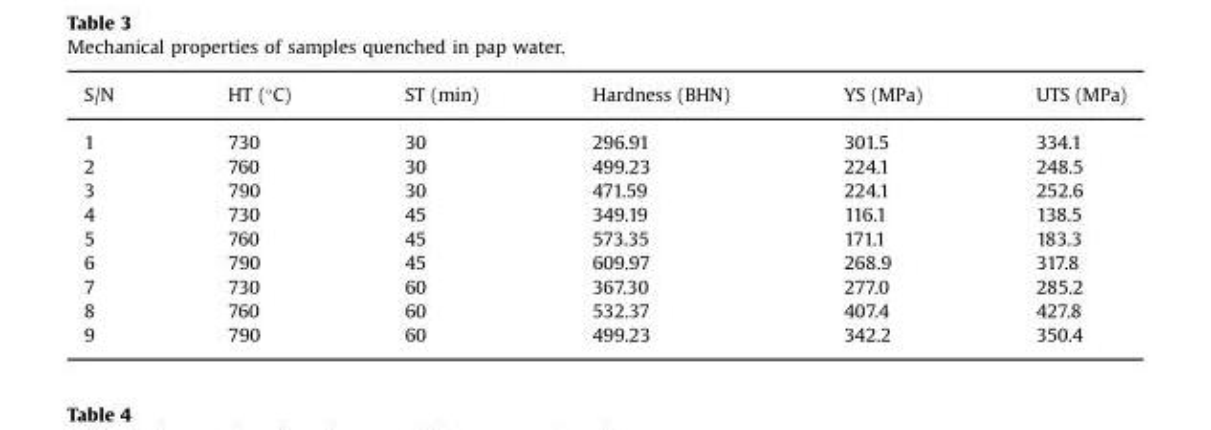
<table><thead><tr><td>S/N</td><td>HT (°C)</td><td>ST (min)</td><td>Hardness (BHN)</td><td>YS (MPa)</td><td>UTS (MPa)</td></tr></thead><tbody><tr><td>1</td><td>730</td><td>30</td><td>296.91</td><td>301.5</td><td>334.1</td></tr><tr><td>2</td><td>760</td><td>30</td><td>499.23</td><td>224.1</td><td>248.5</td></tr><tr><td>3</td><td>790</td><td>30</td><td>471.59</td><td>224.1</td><td>252.6</td></tr><tr><td>4</td><td>730</td><td>45</td><td>349.19</td><td>116.1</td><td>138.5</td></tr><tr><td>5</td><td>760</td><td>45</td><td>573.35</td><td>171.1</td><td>183.3</td></tr><tr><td>6</td><td>790</td><td>45</td><td>609.97</td><td>268.9</td><td>317.8</td></tr><tr><td>7</td><td>730</td><td>60</td><td>367.30</td><td>277.0</td><td>285.2</td></tr><tr><td>8</td><td>760</td><td>60</td><td>532.37</td><td>407.4</td><td>427.8</td></tr><tr><td>9</td><td>790</td><td>60</td><td>499.23</td><td>342.2</td><td>350.4</td></tr></tbody></table>